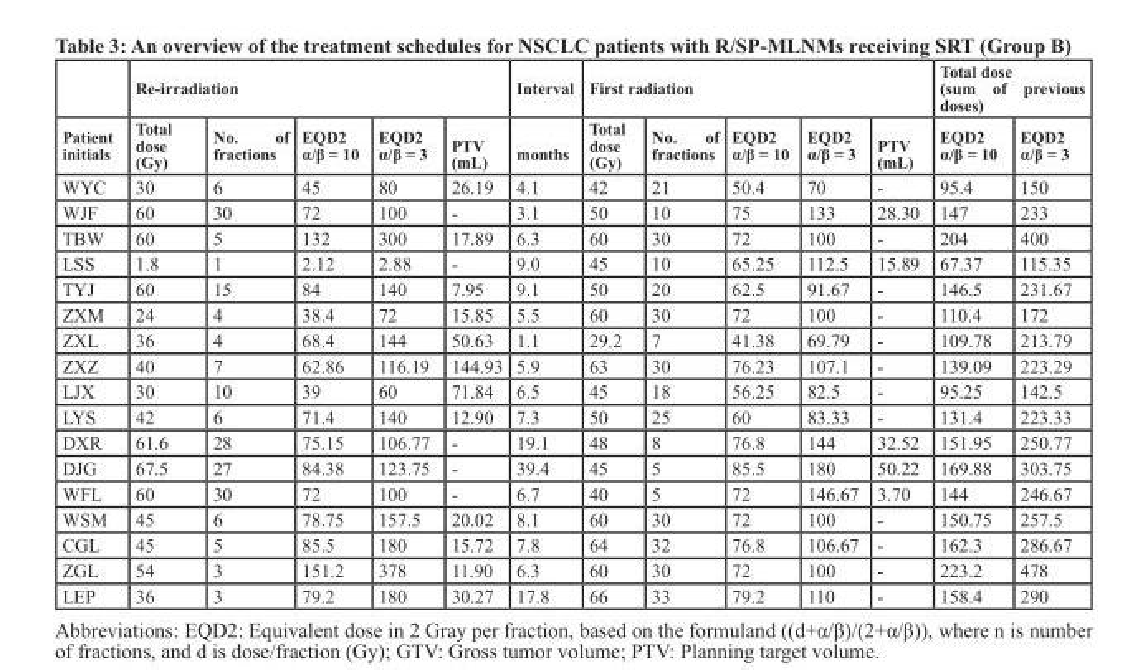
<table><thead><tr><td rowspan="2">Patient initials</td><td colspan="5">Re-irradiation</td><td rowspan="2">Interval months</td><td colspan="5">First radiation</td><td colspan="2">Total dose (sum of previous doses)</td></tr><tr><td>Total dose (Gy)</td><td>No. of fractions</td><td>EQD2 α/β = 10</td><td>EQD2 α/β = 3</td><td>PTV (mL)</td><td>Total dose (Gy)</td><td>No. of fractions</td><td>EQD2 α/β = 10</td><td>EQD2 α/β = 3</td><td>PTV (mL)</td><td>EQD2 α/β = 10</td><td>EQD2 α/β = 3</td></tr></thead><tbody><tr><td>WYC</td><td>30</td><td>6</td><td>45</td><td>80</td><td>26.19</td><td>4.1</td><td>42</td><td>21</td><td>50.4</td><td>70</td><td>-</td><td>95.4</td><td>150</td></tr><tr><td>WJF</td><td>60</td><td>30</td><td>72</td><td>100</td><td>-</td><td>3.1</td><td>50</td><td>10</td><td>75</td><td>133</td><td>28.30</td><td>147</td><td>233</td></tr><tr><td>TBW</td><td>60</td><td>5</td><td>132</td><td>300</td><td>17.89</td><td>6.3</td><td>60</td><td>30</td><td>72</td><td>100</td><td>-</td><td>204</td><td>400</td></tr><tr><td>LSS</td><td>1.8</td><td>1</td><td>2.12</td><td>2.88</td><td>-</td><td>9.0</td><td>45</td><td>10</td><td>65.25</td><td>112.5</td><td>15.89</td><td>67.37</td><td>115.35</td></tr><tr><td>TYJ</td><td>60</td><td>15</td><td>84</td><td>140</td><td>7.95</td><td>9.1</td><td>50</td><td>20</td><td>62.5</td><td>91.67</td><td>-</td><td>146.5</td><td>231.67</td></tr><tr><td>ZXM</td><td>24</td><td>4</td><td>38.4</td><td>72</td><td>15.85</td><td>5.5</td><td>60</td><td>30</td><td>72</td><td>100</td><td>-</td><td>110.4</td><td>172</td></tr><tr><td>ZXL</td><td>36</td><td>4</td><td>68.4</td><td>144</td><td>50.63</td><td>1.1</td><td>29.2</td><td>7</td><td>41.38</td><td>69.79</td><td>-</td><td>109.78</td><td>213.79</td></tr><tr><td>ZXZ</td><td>40</td><td>7</td><td>62.86</td><td>116.19</td><td>144.93</td><td>5.9</td><td>63</td><td>30</td><td>76.23</td><td>107.1</td><td>-</td><td>139.09</td><td>223.29</td></tr><tr><td>LJX</td><td>30</td><td>10</td><td>39</td><td>60</td><td>71.84</td><td>6.5</td><td>45</td><td>18</td><td>56.25</td><td>82.5</td><td>-</td><td>95.25</td><td>142.5</td></tr><tr><td>LYS</td><td>42</td><td>6</td><td>71.4</td><td>140</td><td>12.90</td><td>7.3</td><td>50</td><td>25</td><td>60</td><td>83.33</td><td>-</td><td>131.4</td><td>223.33</td></tr><tr><td>DXR</td><td>61.6</td><td>28</td><td>75.15</td><td>106.77</td><td>-</td><td>19.1</td><td>48</td><td>8</td><td>76.8</td><td>144</td><td>32.52</td><td>151.95</td><td>250.77</td></tr><tr><td>DJG</td><td>67.5</td><td>27</td><td>84.38</td><td>123.75</td><td>-</td><td>39.4</td><td>45</td><td>5</td><td>85.5</td><td>180</td><td>50.22</td><td>169.88</td><td>303.75</td></tr><tr><td>WFL</td><td>60</td><td>30</td><td>72</td><td>100</td><td>-</td><td>6.7</td><td>40</td><td>5</td><td>72</td><td>146.67</td><td>3.70</td><td>144</td><td>246.67</td></tr><tr><td>WSM</td><td>45</td><td>6</td><td>78.75</td><td>157.5</td><td>20.02</td><td>8.1</td><td>60</td><td>30</td><td>72</td><td>100</td><td>-</td><td>150.75</td><td>257.5</td></tr><tr><td>CGL</td><td>45</td><td>5</td><td>85.5</td><td>180</td><td>15.72</td><td>7.8</td><td>64</td><td>32</td><td>76.8</td><td>106.67</td><td>-</td><td>162.3</td><td>286.67</td></tr><tr><td>ZGL</td><td>54</td><td>3</td><td>151.2</td><td>378</td><td>11.90</td><td>6.3</td><td>60</td><td>30</td><td>72</td><td>100</td><td>-</td><td>223.2</td><td>478</td></tr><tr><td>LEP</td><td>36</td><td>3</td><td>79.2</td><td>180</td><td>30.27</td><td>17.8</td><td>66</td><td>33</td><td>79.2</td><td>110</td><td>-</td><td>158.4</td><td>290</td></tr></tbody></table>